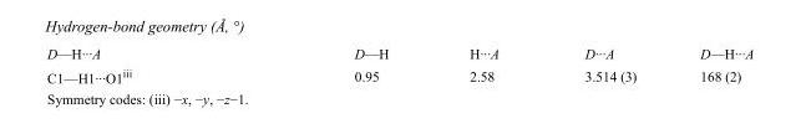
<table><tbody><tr><td>D—H···A</td><td>D—H</td><td>H···A</td><td>D···A</td><td>D—H···A</td></tr><tr><td>C1—H1···O1<sup>iii</sup></td><td>0.95</td><td>2.58</td><td>3.514 (3)</td><td>168 (2)</td></tr></tbody></table>